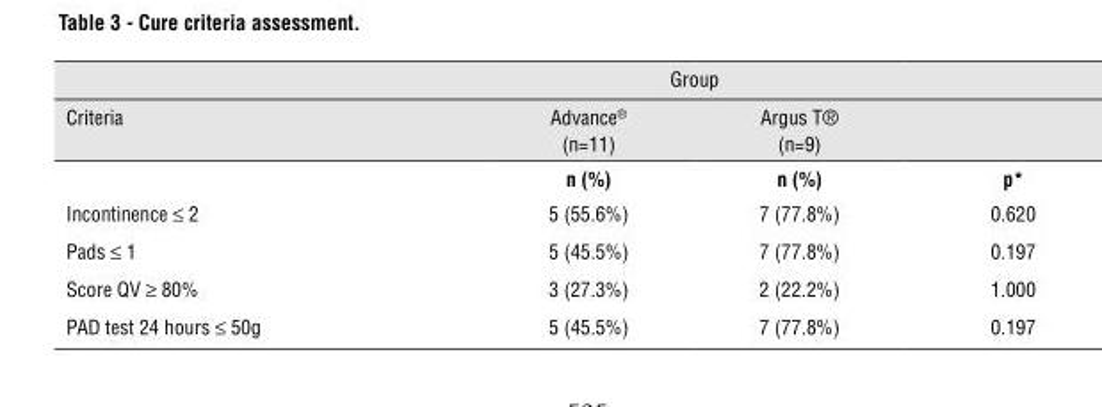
<table><thead><tr><td rowspan="2">Criteria</td><td colspan="2">Group</td><td rowspan="2"></td></tr><tr><td>Advance<sup>®</sup> (n=11)</td><td>Argus T® (n=9)</td></tr></thead><tbody><tr><td></td><td>n (%)</td><td>n (%)</td><td>p*</td></tr><tr><td>Incontinence ≤ 2</td><td>5 (55.6%)</td><td>7 (77.8%)</td><td>0.620</td></tr><tr><td>Pads ≤ 1</td><td>5 (45.5%)</td><td>7 (77.8%)</td><td>0.197</td></tr><tr><td>Score QV ≥ 80%</td><td>3 (27.3%)</td><td>2 (22.2%)</td><td>1.000</td></tr><tr><td>PAD test 24 hours ≤ 50g</td><td>5 (45.5%)</td><td>7 (77.8%)</td><td>0.197</td></tr></tbody></table>